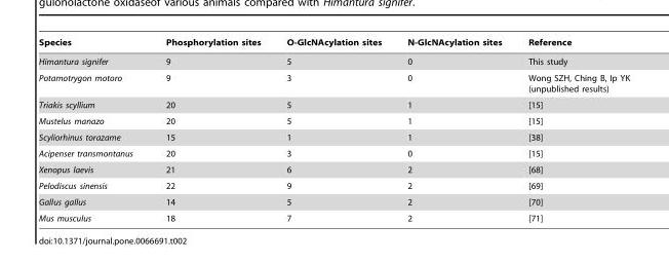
<table><thead><tr><td>Species</td><td>Phosphorylation sites</td><td>O-GlcNAcylation sites</td><td>N-GlcNAcylation sites</td><td>Reference</td></tr></thead><tbody><tr><td>Himantura signifer</td><td>9</td><td>5</td><td>0</td><td>This study</td></tr><tr><td>Potamotrygon motoro</td><td>9</td><td>3</td><td>0</td><td>Wong SZH, Ching B, Ip YK (unpublished results)</td></tr><tr><td>Triakis scyllium</td><td>20</td><td>5</td><td>1</td><td>[15]</td></tr><tr><td>Mustelus manazo</td><td>20</td><td>5</td><td>1</td><td>[15]</td></tr><tr><td>Scyliorhinus torazame</td><td>15</td><td>1</td><td>1</td><td>[38]</td></tr><tr><td>Acipenser transmontanus</td><td>20</td><td>3</td><td>0</td><td>[15]</td></tr><tr><td>Xenopus laevis</td><td>21</td><td>6</td><td>2</td><td>[68]</td></tr><tr><td>Pelodiscus sinensis</td><td>22</td><td>9</td><td>2</td><td>[69]</td></tr><tr><td>Gallus gallus</td><td>14</td><td>5</td><td>2</td><td>[70]</td></tr><tr><td>Mus musculus</td><td>18</td><td>7</td><td>2</td><td>[71]</td></tr></tbody></table>